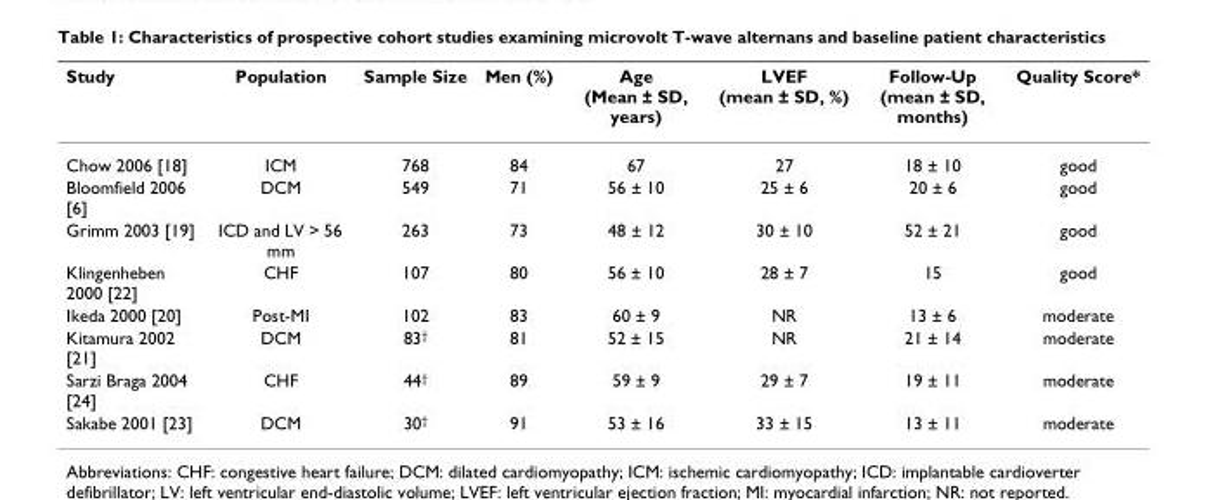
<table><thead><tr><td>Study</td><td>Population</td><td>Sample Size</td><td>Men (%)</td><td>Age (Mean ± SD, years)</td><td>LVEF (mean ± SD, %)</td><td>Follow-Up (mean ± SD, months)</td><td>Quality Score*</td></tr></thead><tbody><tr><td>Chow 2006 [18]</td><td>ICM</td><td>768</td><td>84</td><td>67</td><td>27</td><td>18 ± 10</td><td>good</td></tr><tr><td>Bloomfield 2006 [6]</td><td>DCM</td><td>549</td><td>71</td><td>56 ± 10</td><td>25 ± 6</td><td>20 ± 6</td><td>good</td></tr><tr><td>Grimm 2003 [19]</td><td>ICD and LV &gt; 56 mm</td><td>263</td><td>73</td><td>48 ± 12</td><td>30 ± 10</td><td>52 ± 21</td><td>good</td></tr><tr><td>Klingenheben 2000 [22]</td><td>CHF</td><td>107</td><td>80</td><td>56 ± 10</td><td>28 ± 7</td><td>15</td><td>good</td></tr><tr><td>Ikeda 2000 [20]</td><td>Post-MI</td><td>102</td><td>83</td><td>60 ± 9</td><td>NR</td><td>13 ± 6</td><td>moderate</td></tr><tr><td>Kitamura 2002 [21]</td><td>DCM</td><td>83<sup>†</sup></td><td>81</td><td>52 ± 15</td><td>NR</td><td>21 ± 14</td><td>moderate</td></tr><tr><td>Sarzi Braga 2004 [24]</td><td>CHF</td><td>44<sup>†</sup></td><td>89</td><td>59 ± 9</td><td>29 ± 7</td><td>19 ± 11</td><td>moderate</td></tr><tr><td>Sakabe 2001 [23]</td><td>DCM</td><td>30<sup>†</sup></td><td>91</td><td>53 ± 16</td><td>33 ± 15</td><td>13 ± 11</td><td>moderate</td></tr></tbody></table>